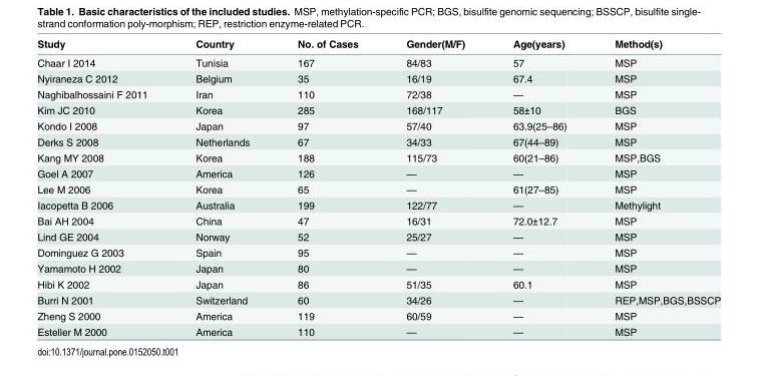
<table><thead><tr><td>Study</td><td>Country</td><td>No. of Cases</td><td>Gender(M/F)</td><td>Age(years)</td><td>Method(s)</td></tr></thead><tbody><tr><td>Chaar I 2014</td><td>Tunisia</td><td>167</td><td>84/83</td><td>57</td><td>MSP</td></tr><tr><td>Nyiraneza C 2012</td><td>Belgium</td><td>35</td><td>16/19</td><td>67.4</td><td>MSP</td></tr><tr><td>Naghibalhossaini F 2011</td><td>Iran</td><td>110</td><td>72/38</td><td>—</td><td>MSP</td></tr><tr><td>Kim JC 2010</td><td>Korea</td><td>285</td><td>168/117</td><td>58±10</td><td>BGS</td></tr><tr><td>Kondo I 2008</td><td>Japan</td><td>97</td><td>57/40</td><td>63.9(25–86)</td><td>MSP</td></tr><tr><td>Derks S 2008</td><td>Netherlands</td><td>67</td><td>34/33</td><td>67(44–89)</td><td>MSP</td></tr><tr><td>Kang MY 2008</td><td>Korea</td><td>188</td><td>115/73</td><td>60(21–86)</td><td>MSP,BGS</td></tr><tr><td>Goel A 2007</td><td>America</td><td>126</td><td>—</td><td>—</td><td>MSP</td></tr><tr><td>Lee M 2006</td><td>Korea</td><td>65</td><td>—</td><td>61(27–85)</td><td>MSP</td></tr><tr><td>Iacopetta B 2006</td><td>Australia</td><td>199</td><td>122/77</td><td>—</td><td>Methylight</td></tr><tr><td>Bai AH 2004</td><td>China</td><td>47</td><td>16/31</td><td>72.0±12.7</td><td>MSP</td></tr><tr><td>Lind GE 2004</td><td>Norway</td><td>52</td><td>25/27</td><td>—</td><td>MSP</td></tr><tr><td>Dominguez G 2003</td><td>Spain</td><td>95</td><td>—</td><td>—</td><td>MSP</td></tr><tr><td>Yamamoto H 2002</td><td>Japan</td><td>80</td><td>—</td><td>—</td><td>MSP</td></tr><tr><td>Hibi K 2002</td><td>Japan</td><td>86</td><td>51/35</td><td>60.1</td><td>MSP</td></tr><tr><td>Burri N 2001</td><td>Switzerland</td><td>60</td><td>34/26</td><td>—</td><td>REP,MSP,BGS,BSSCP</td></tr><tr><td>Zheng S 2000</td><td>America</td><td>119</td><td>60/59</td><td>—</td><td>MSP</td></tr><tr><td>Esteller M 2000</td><td>America</td><td>110</td><td>—</td><td>—</td><td>MSP</td></tr></tbody></table>